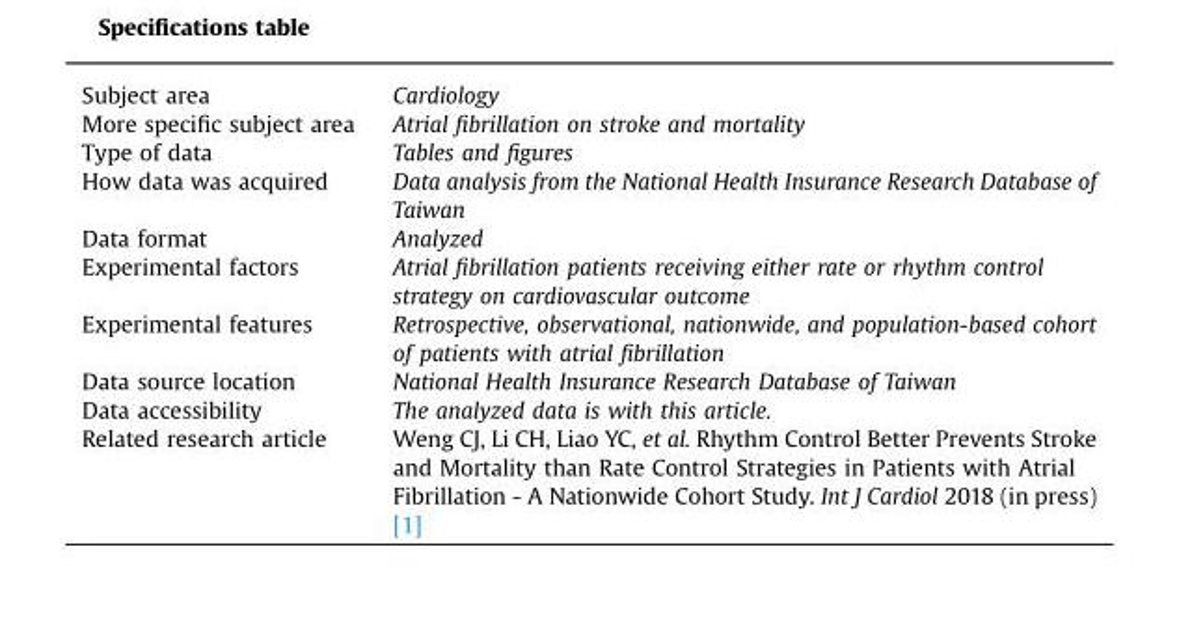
<table><tbody><tr><td>Subject area</td><td>Cardiology</td></tr><tr><td>More specific subject area</td><td>Atrial fibrillation on stroke and mortality</td></tr><tr><td>Type of data</td><td>Tables and figures</td></tr><tr><td>How data was acquired</td><td>Data analysis from the National Health Insurance Research Database of Taiwan</td></tr><tr><td>Data format</td><td>Analyzed</td></tr><tr><td>Experimental factors</td><td>Atrial fibrillation patients receiving either rate or rhythm control strategy on cardiovascular outcome</td></tr><tr><td>Experimental features</td><td>Retrospective, observational, nationwide, and population-based cohort of patients with atrial fibrillation</td></tr><tr><td>Data source location</td><td>National Health Insurance Research Database of Taiwan</td></tr><tr><td>Data accessibility</td><td>The analyzed data is with this article.</td></tr><tr><td>Related research article</td><td>Weng CJ, Li CH, Liao YC, et al. Rhythm Control Better Prevents Stroke and Mortality than Rate Control Strategies in Patients with Atrial Fibrillation - A Nationwide Cohort Study. Int J Cardiol 2018 (in press) [1]</td></tr></tbody></table>